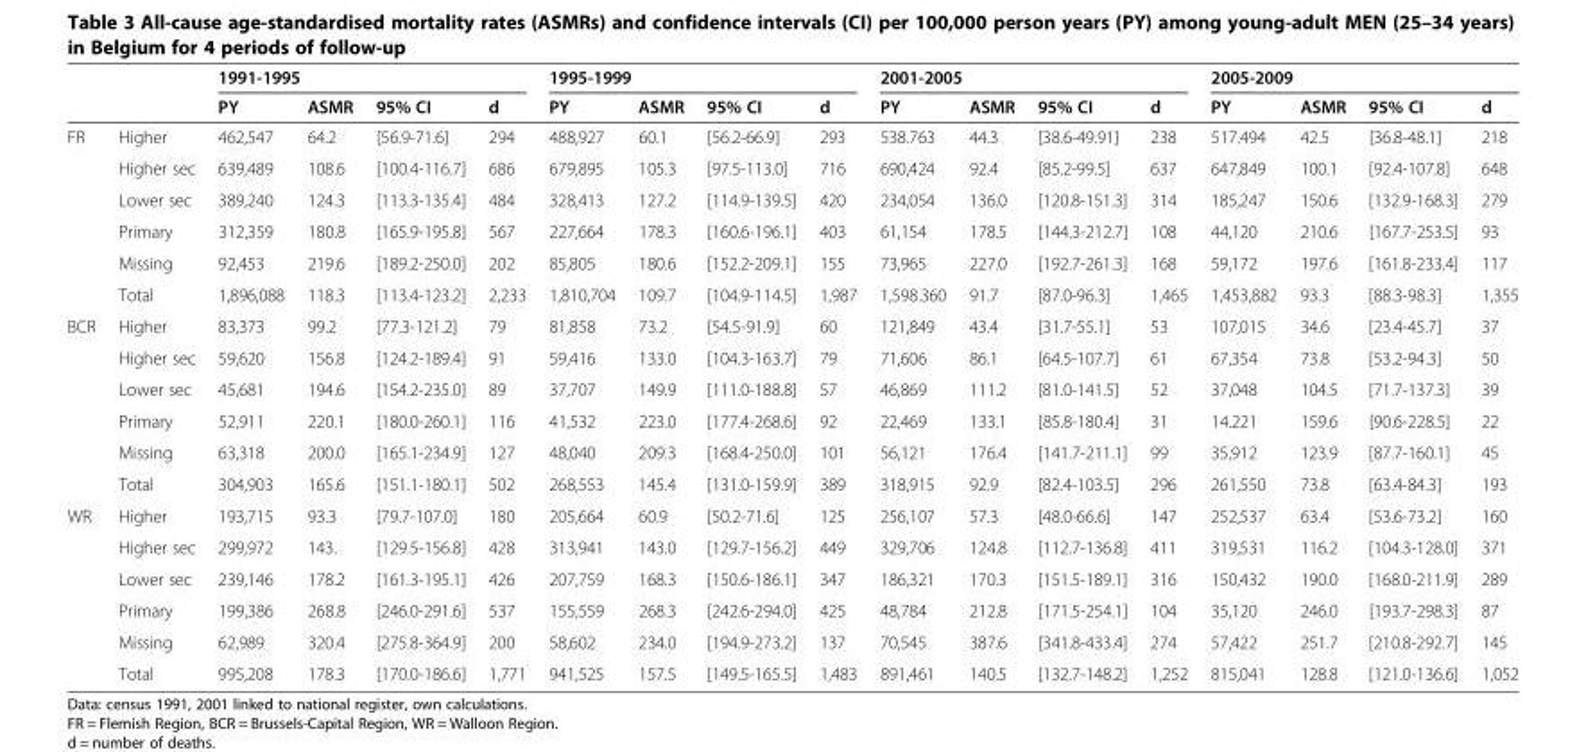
<table><thead><tr><td rowspan="2"></td><td rowspan="2"></td><td colspan="4">1991-1995</td><td colspan="4">1995-1999</td><td colspan="4">2001-2005</td><td colspan="4">2005-2009</td></tr><tr><td>PY</td><td>ASMR</td><td>95% CI</td><td>d</td><td>PY</td><td>ASMR</td><td>95% CI</td><td>d</td><td>PY</td><td>ASMR</td><td>95% CI</td><td>d</td><td>PY</td><td>ASMR</td><td>95% CI</td><td>d</td></tr></thead><tbody><tr><td rowspan="6">FR</td><td>Higher</td><td>462,547</td><td>64.2</td><td>[56.9-71.6]</td><td>294</td><td>488,927</td><td>60.1</td><td>[56.2-66.9]</td><td>293</td><td>538.763</td><td>44.3</td><td>[38.6-49.91]</td><td>238</td><td>517.494</td><td>42.5</td><td>[36.8-48.1]</td><td>218</td></tr><tr><td>Higher sec</td><td>639,489</td><td>108.6</td><td>[100.4-116.7]</td><td>686</td><td>679,895</td><td>105.3</td><td>[97.5-113.0]</td><td>716</td><td>690,424</td><td>92.4</td><td>[85.2-99.5]</td><td>637</td><td>647,849</td><td>100.1</td><td>[92.4-107.8]</td><td>648</td></tr><tr><td>Lower sec</td><td>389,240</td><td>124.3</td><td>[113.3-135.4]</td><td>484</td><td>328,413</td><td>127.2</td><td>[114.9-139.5]</td><td>420</td><td>234,054</td><td>136.0</td><td>[120.8-151.3]</td><td>314</td><td>185,247</td><td>150.6</td><td>[132.9-168.3]</td><td>279</td></tr><tr><td>Primary</td><td>312,359</td><td>180.8</td><td>[165.9-195.8]</td><td>567</td><td>227,664</td><td>178.3</td><td>[160.6-196.1]</td><td>403</td><td>61,154</td><td>178.5</td><td>[144.3-212.7]</td><td>108</td><td>44,120</td><td>210.6</td><td>[167.7-253.5]</td><td>93</td></tr><tr><td>Missing</td><td>92,453</td><td>219.6</td><td>[189.2-250.0]</td><td>202</td><td>85,805</td><td>180.6</td><td>[152.2-209.1]</td><td>155</td><td>73,965</td><td>227.0</td><td>[192.7-261.3]</td><td>168</td><td>59,172</td><td>197.6</td><td>[161.8-233.4]</td><td>117</td></tr><tr><td>Total</td><td>1,896,088</td><td>118.3</td><td>[113.4-123.2]</td><td>2,233</td><td>1,810,704</td><td>109.7</td><td>[104.9-114.5]</td><td>1,987</td><td>1,598.360</td><td>91.7</td><td>[87.0-96.3]</td><td>1,465</td><td>1,453,882</td><td>93.3</td><td>[88.3-98.3]</td><td>1,355</td></tr><tr><td rowspan="6">BCR</td><td>Higher</td><td>83,373</td><td>99.2</td><td>[77.3-121.2]</td><td>79</td><td>81,858</td><td>73.2</td><td>[54.5-91.9]</td><td>60</td><td>121,849</td><td>43.4</td><td>[31.7-55.1]</td><td>53</td><td>107,015</td><td>34.6</td><td>[23.4-45.7]</td><td>37</td></tr><tr><td>Higher sec</td><td>59,620</td><td>156.8</td><td>[124.2-189.4]</td><td>91</td><td>59,416</td><td>133.0</td><td>[104.3-163.7]</td><td>79</td><td>71,606</td><td>86.1</td><td>[64.5-107.7]</td><td>61</td><td>67,354</td><td>73.8</td><td>[53.2-94.3]</td><td>50</td></tr><tr><td>Lower sec</td><td>45,681</td><td>194.6</td><td>[154.2-235.0]</td><td>89</td><td>37,707</td><td>149.9</td><td>[111.0-188.8]</td><td>57</td><td>46,869</td><td>111.2</td><td>[81.0-141.5]</td><td>52</td><td>37,048</td><td>104.5</td><td>[71.7-137.3]</td><td>39</td></tr><tr><td>Primary</td><td>52,911</td><td>220.1</td><td>[180.0-260.1]</td><td>116</td><td>41,532</td><td>223.0</td><td>[177.4-268.6]</td><td>92</td><td>22,469</td><td>133.1</td><td>[85.8-180.4]</td><td>31</td><td>14.221</td><td>159.6</td><td>[90.6-228.5]</td><td>22</td></tr><tr><td>Missing</td><td>63,318</td><td>200.0</td><td>[165.1-234.9]</td><td>127</td><td>48,040</td><td>209.3</td><td>[168.4-250.0]</td><td>101</td><td>56,121</td><td>176.4</td><td>[141.7-211.1]</td><td>99</td><td>35,912</td><td>123.9</td><td>[87.7-160.1]</td><td>45</td></tr><tr><td>Total</td><td>304,903</td><td>165.6</td><td>[151.1-180.1]</td><td>502</td><td>268,553</td><td>145.4</td><td>[131.0-159.9]</td><td>389</td><td>318,915</td><td>92.9</td><td>[82.4-103.5]</td><td>296</td><td>261,550</td><td>73.8</td><td>[63.4-84.3]</td><td>193</td></tr><tr><td rowspan="6">WR</td><td>Higher</td><td>193,715</td><td>93.3</td><td>[79.7-107.0]</td><td>180</td><td>205,664</td><td>60.9</td><td>[50.2-71.6]</td><td>125</td><td>256,107</td><td>57.3</td><td>[48.0-66.6]</td><td>147</td><td>252,537</td><td>63.4</td><td>[53.6-73.2]</td><td>160</td></tr><tr><td>Higher sec</td><td>299,972</td><td>143.</td><td>[129.5-156.8]</td><td>428</td><td>313,941</td><td>143.0</td><td>[129.7-156.2]</td><td>449</td><td>329,706</td><td>124.8</td><td>[112.7-136.8]</td><td>411</td><td>319,531</td><td>116.2</td><td>[104.3-128.0]</td><td>371</td></tr><tr><td>Lower sec</td><td>239,146</td><td>178.2</td><td>[161.3-195.1]</td><td>426</td><td>207,759</td><td>168.3</td><td>[150.6-186.1]</td><td>347</td><td>186,321</td><td>170.3</td><td>[151.5-189.1]</td><td>316</td><td>150,432</td><td>190.0</td><td>[168.0-211.9]</td><td>289</td></tr><tr><td>Primary</td><td>199,386</td><td>268.8</td><td>[246.0-291.6]</td><td>537</td><td>155,559</td><td>268.3</td><td>[242.6-294.0]</td><td>425</td><td>48,784</td><td>212.8</td><td>[171.5-254.1]</td><td>104</td><td>35,120</td><td>246.0</td><td>[193.7-298.3]</td><td>87</td></tr><tr><td>Missing</td><td>62,989</td><td>320.4</td><td>[275.8-364.9]</td><td>200</td><td>58,602</td><td>234.0</td><td>[194.9-273.2]</td><td>137</td><td>70,545</td><td>387.6</td><td>[341.8-433.4]</td><td>274</td><td>57,422</td><td>251.7</td><td>[210.8-292.7]</td><td>145</td></tr><tr><td>Total</td><td>995,208</td><td>178.3</td><td>[170.0-186.6]</td><td>1,771</td><td>941,525</td><td>157.5</td><td>[149.5-165.5]</td><td>1,483</td><td>891,461</td><td>140.5</td><td>[132.7-148.2]</td><td>1,252</td><td>815,041</td><td>128.8</td><td>[121.0-136.6]</td><td>1,052</td></tr></tbody></table>